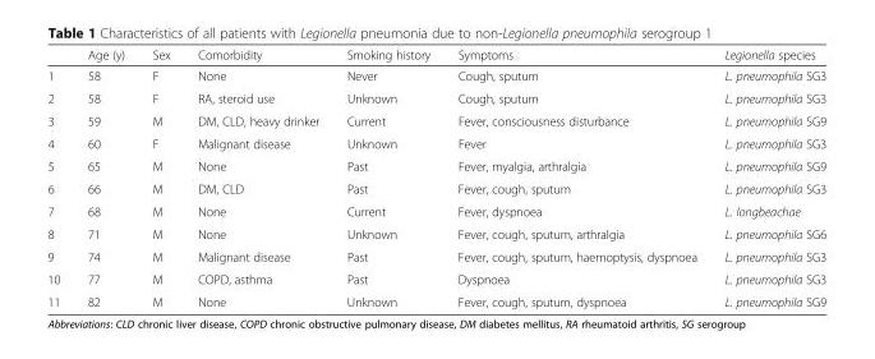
<table><thead><tr><td></td><td>Age (y)</td><td>Sex</td><td>Comorbidity</td><td>Smoking history</td><td>Symptoms</td><td>Legionella species</td></tr></thead><tbody><tr><td>1</td><td>58</td><td>F</td><td>None</td><td>Never</td><td>Cough, sputum</td><td>L. pneumophila SG3</td></tr><tr><td>2</td><td>58</td><td>F</td><td>RA, steroid use</td><td>Unknown</td><td>Cough, sputum</td><td>L. pneumophila SG3</td></tr><tr><td>3</td><td>59</td><td>M</td><td>DM, CLD, heavy drinker</td><td>Current</td><td>Fever, consciousness disturbance</td><td>L. pneumophila SG9</td></tr><tr><td>4</td><td>60</td><td>F</td><td>Malignant disease</td><td>Unknown</td><td>Fever</td><td>L. pneumophila SG3</td></tr><tr><td>5</td><td>65</td><td>M</td><td>None</td><td>Past</td><td>Fever, myalgia, arthralgia</td><td>L. pneumophila SG9</td></tr><tr><td>6</td><td>66</td><td>M</td><td>DM, CLD</td><td>Past</td><td>Fever, cough, sputum</td><td>L. pneumophila SG3</td></tr><tr><td>7</td><td>68</td><td>M</td><td>None</td><td>Current</td><td>Fever, dyspnoea</td><td>L. longbeachae</td></tr><tr><td>8</td><td>71</td><td>M</td><td>None</td><td>Unknown</td><td>Fever, cough, sputum, arthralgia</td><td>L. pneumophila SG6</td></tr><tr><td>9</td><td>74</td><td>M</td><td>Malignant disease</td><td>Past</td><td>Fever, cough, sputum, haemoptysis, dyspnoea</td><td>L. pneumophila SG3</td></tr><tr><td>10</td><td>77</td><td>M</td><td>COPD, asthma</td><td>Past</td><td>Dyspnoea</td><td>L. pneumophila SG3</td></tr><tr><td>11</td><td>82</td><td>M</td><td>None</td><td>Unknown</td><td>Fever, cough, sputum, dyspnoea</td><td>L. pneumophila SG9</td></tr></tbody></table>